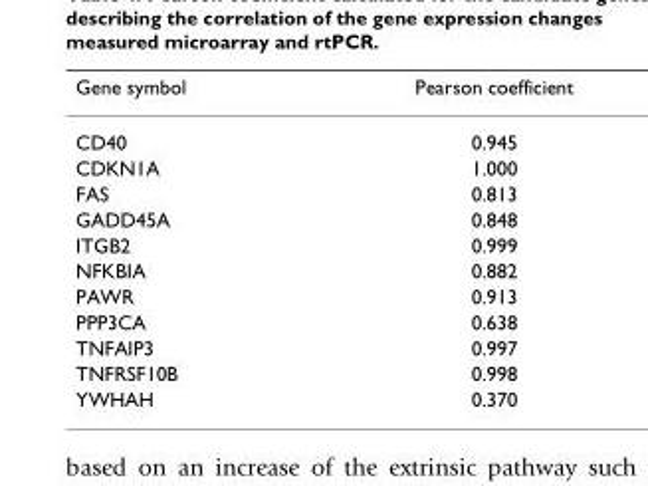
<table><thead><tr><td>Gene symbol</td><td>Pearson coefficient</td></tr></thead><tbody><tr><td>CD40</td><td>0.945</td></tr><tr><td>CDKN1A</td><td>1.000</td></tr><tr><td>FAS</td><td>0.813</td></tr><tr><td>GADD45A</td><td>0.848</td></tr><tr><td>ITGB2</td><td>0.999</td></tr><tr><td>NFKBIA</td><td>0.882</td></tr><tr><td>PAWR</td><td>0.913</td></tr><tr><td>PPP3CA</td><td>0.638</td></tr><tr><td>TNFAIP3</td><td>0.997</td></tr><tr><td>TNFRSF10B</td><td>0.998</td></tr><tr><td>YWHAH</td><td>0.370</td></tr></tbody></table>